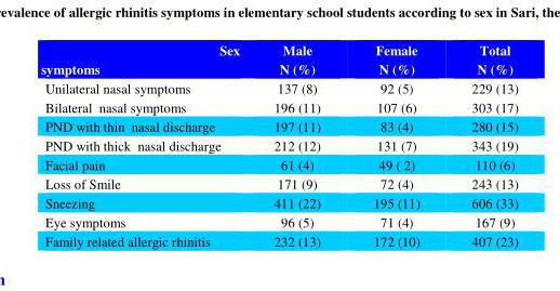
<table><thead><tr><td>Sex symptoms</td><td>Male N (%)</td><td>Female N (%)</td><td>Total N (%)</td></tr></thead><tbody><tr><td>Unilateral nasal symptoms</td><td>137 (8)</td><td>92 (5)</td><td>229 (13)</td></tr><tr><td>Bilateral nasal symptoms</td><td>196 (11)</td><td>107 (6)</td><td>303 (17)</td></tr><tr><td>PND with thin nasal discharge</td><td>197 (11)</td><td>83 (4)</td><td>280 (15)</td></tr><tr><td>PND with thick nasal discharge</td><td>212 (12)</td><td>131 (7)</td><td>343 (19)</td></tr><tr><td>Facial pain</td><td>61 (4)</td><td>49 ( 2)</td><td>110 (6)</td></tr><tr><td>Loss of Smile</td><td>171 (9)</td><td>72 (4)</td><td>243 (13)</td></tr><tr><td>Sneezing</td><td>411 (22)</td><td>195 (11)</td><td>606 (33)</td></tr><tr><td>Eye symptoms</td><td>96 (5)</td><td>71 (4)</td><td>167 (9)</td></tr><tr><td>Family related allergic rhinitis</td><td>232 (13)</td><td>172 (10)</td><td>407 (23)</td></tr></tbody></table>